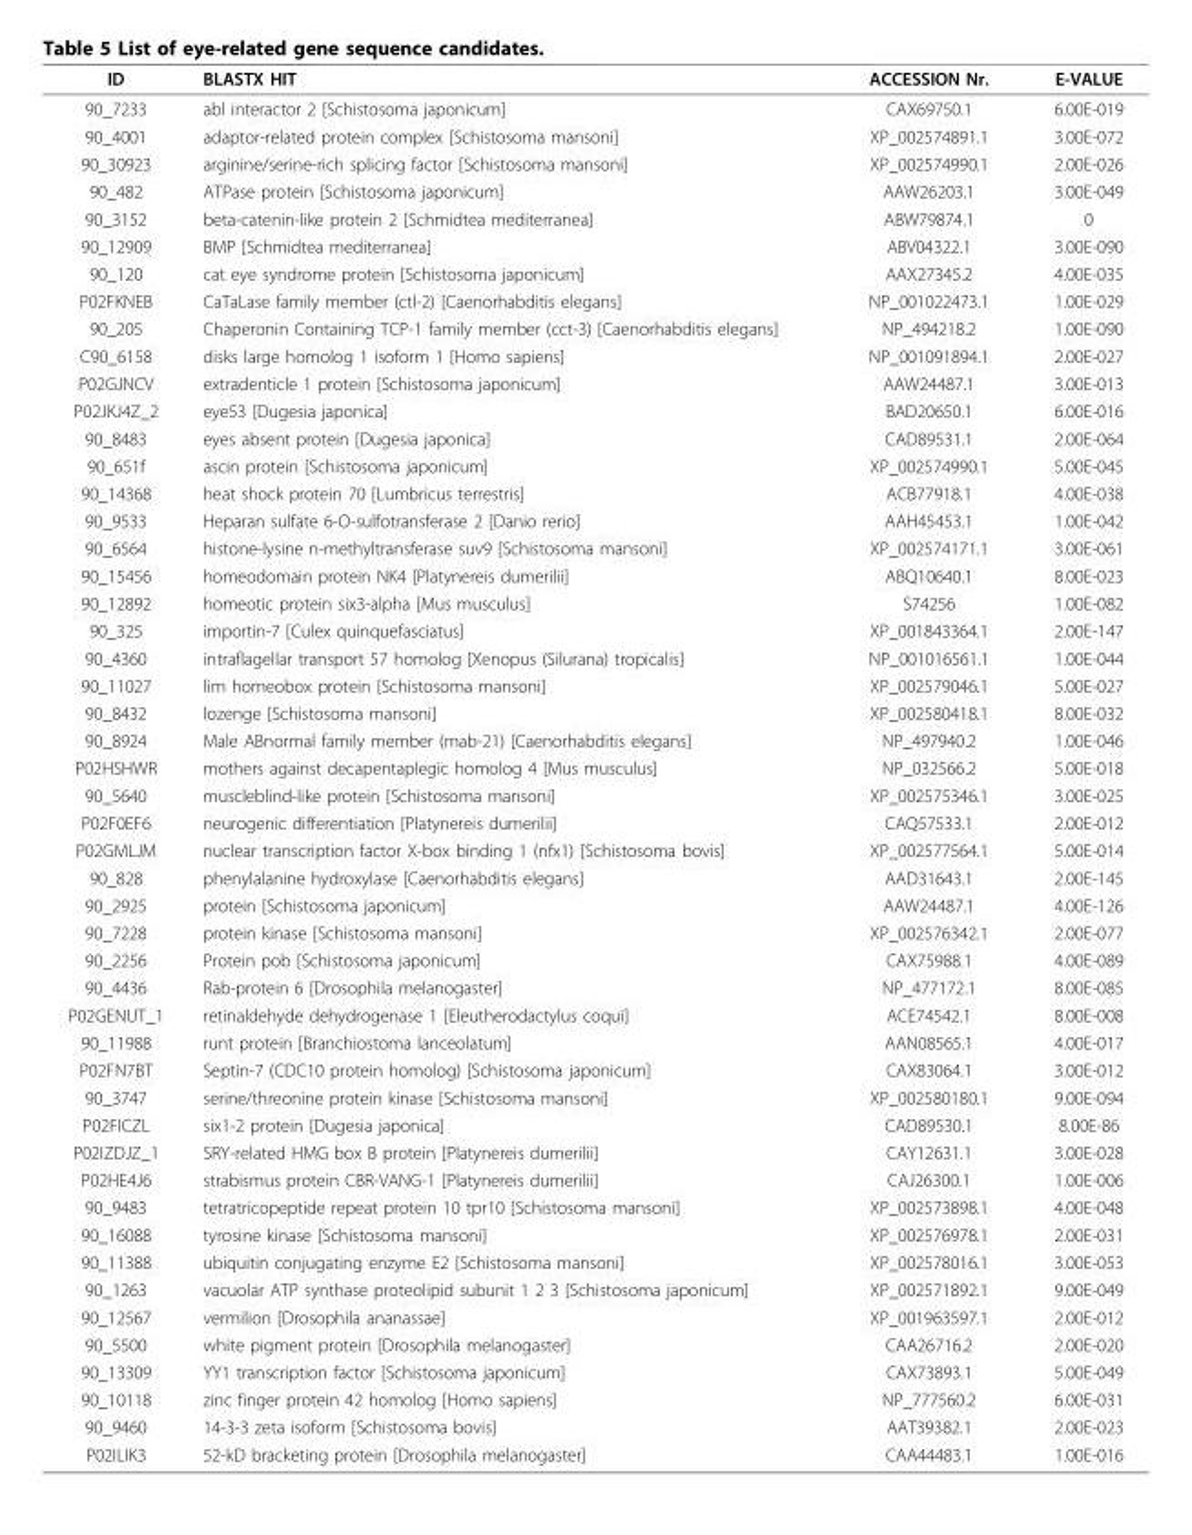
<table><thead><tr><td>ID</td><td>BLASTX HIT</td><td>ACCESSION Nr.</td><td>E-VALUE</td></tr></thead><tbody><tr><td>90_7233</td><td>abl interactor 2 [Schistosoma japonicum]</td><td>CAX69750.1</td><td>6.00E-019</td></tr><tr><td>90_4001</td><td>adaptor-related protein complex [Schistosoma mansoni]</td><td>XP_002574891.1</td><td>3.00E-072</td></tr><tr><td>90_30923</td><td>arginine/serine-rich splicing factor [Schistosoma mansoni]</td><td>XP_002574990.1</td><td>2.00E-026</td></tr><tr><td>90_482</td><td>ATPase protein [Schistosoma japonicum]</td><td>AAW26203.1</td><td>3.00E-049</td></tr><tr><td>90_3152</td><td>beta-catenin-like protein 2 [Schmidtea mediterranea]</td><td>ABW79874.1</td><td>0</td></tr><tr><td>90_12909</td><td>BMP [Schmidtea mediterranea]</td><td>ABV04322.1</td><td>3.00E-090</td></tr><tr><td>90_120</td><td>cat eye syndrome protein [Schistosoma japonicum]</td><td>AAX27345.2</td><td>4.00E-035</td></tr><tr><td>P02FKNEB</td><td>CaTaLase family member (ctl-2) [Caenorhabditis elegans]</td><td>NP_001022473.1</td><td>1.00E-029</td></tr><tr><td>90_205</td><td>Chaperonin Containing TCP-1 family member (cct-3) [Caenorhabditis elegans]</td><td>NP_494218.2</td><td>1.00E-090</td></tr><tr><td>C90_6158</td><td>disks large homolog 1 isoform 1 [Homo sapiens]</td><td>NP_001091894.1</td><td>2.00E-027</td></tr><tr><td>P02GJNCV</td><td>extradenticle 1 protein [Schistosoma japonicum]</td><td>AAW24487.1</td><td>3.00E-013</td></tr><tr><td>P02JKJ4Z_2</td><td>eye53 [Dugesia japonica]</td><td>BAD20650.1</td><td>6.00E-016</td></tr><tr><td>90_8483</td><td>eyes absent protein [Dugesia japonica]</td><td>CAD89531.1</td><td>2.00E-064</td></tr><tr><td>90_651f</td><td>ascin protein [Schistosoma japonicum]</td><td>XP_002574990.1</td><td>5.00E-045</td></tr><tr><td>90_14368</td><td>heat shock protein 70 [Lumbricus terrestris]</td><td>ACB77918.1</td><td>4.00E-038</td></tr><tr><td>90_9533</td><td>Heparan sulfate 6-O-sulfotransferase 2 [Danio rerio]</td><td>AAH45453.1</td><td>1.00E-042</td></tr><tr><td>90_6564</td><td>histone-lysine n-methyltransferase suv9 [Schistosoma mansoni]</td><td>XP_002574171.1</td><td>3.00E-061</td></tr><tr><td>90_15456</td><td>homeodomain protein NK4 [Platynereis dumerilii]</td><td>ABQ10640.1</td><td>8.00E-023</td></tr><tr><td>90_12892</td><td>homeotic protein six3-alpha [Mus musculus]</td><td>S74256</td><td>1.00E-082</td></tr><tr><td>90_325</td><td>importin-7 [Culex quinquefasciatus]</td><td>XP_001843364.1</td><td>2.00E-147</td></tr><tr><td>90_4360</td><td>intraflagellar transport 57 homolog [Xenopus (Silurana) tropicalis]</td><td>NP_001016561.1</td><td>1.00E-044</td></tr><tr><td>90_11027</td><td>lim homeobox protein [Schistosoma mansoni]</td><td>XP_002579046.1</td><td>5.00E-027</td></tr><tr><td>90_8432</td><td>lozenge [Schistosoma mansoni]</td><td>XP_002580418.1</td><td>8.00E-032</td></tr><tr><td>90_8924</td><td>Male ABnormal family member (mab-21) [Caenorhabditis elegans]</td><td>NP_497940.2</td><td>1.00E-046</td></tr><tr><td>P02HSHWR</td><td>mothers against decapentaplegic homolog 4 [Mus musculus]</td><td>NP_032566.2</td><td>5.00E-018</td></tr><tr><td>90_5640</td><td>muscleblind-like protein [Schistosoma mansoni]</td><td>XP_002575346.1</td><td>3.00E-025</td></tr><tr><td>P02F0EF6</td><td>neurogenic differentiation [Platynereis dumerilii]</td><td>CAQ57533.1</td><td>2.00E-012</td></tr><tr><td>P02GMLJM</td><td>nuclear transcription factor X-box binding 1 (nfx1) [Schistosoma bovis]</td><td>XP_002577564.1</td><td>5.00E-014</td></tr><tr><td>90_828</td><td>phenylalanine hydroxylase [Caenorhabditis elegans]</td><td>AAD31643.1</td><td>2.00E-145</td></tr><tr><td>90_2925</td><td>protein [Schistosoma japonicum]</td><td>AAW24487.1</td><td>4.00E-126</td></tr><tr><td>90_7228</td><td>protein kinase [Schistosoma mansoni]</td><td>XP_002576342.1</td><td>2.00E-077</td></tr><tr><td>90_2256</td><td>Protein pob [Schistosoma japonicum]</td><td>CAX75988.1</td><td>4.00E-089</td></tr><tr><td>90_4436</td><td>Rab-protein 6 [Drosophila melanogaster]</td><td>NP_477172.1</td><td>8.00E-085</td></tr><tr><td>P02GENUT_1</td><td>retinaldehyde dehydrogenase 1 [Eleutherodactylus coqui]</td><td>ACE74542.1</td><td>8.00E-008</td></tr><tr><td>90_11988</td><td>runt protein [Branchiostoma lanceolatum]</td><td>AAN08565.1</td><td>4.00E-017</td></tr><tr><td>P02FN7BT</td><td>Septin-7 (CDC10 protein homolog) [Schistosoma japonicum]</td><td>CAX83064.1</td><td>3.00E-012</td></tr><tr><td>90_3747</td><td>serine/threonine protein kinase [Schistosoma mansoni]</td><td>XP_002580180.1</td><td>9.00E-094</td></tr><tr><td>P02FICZL</td><td>six1-2 protein [Dugesia japonica]</td><td>CAD89530.1</td><td>8.00E-86</td></tr><tr><td>P02IZDJZ_1</td><td>SRY-related HMG box B protein [Platynereis dumerilii]</td><td>CAY12631.1</td><td>3.00E-028</td></tr><tr><td>P02HE4J6</td><td>strabismus protein CBR-VANG-1 [Platynereis dumerilii]</td><td>CAJ26300.1</td><td>1.00E-006</td></tr><tr><td>90_9483</td><td>tetratricopeptide repeat protein 10 tpr10 [Schistosoma mansoni]</td><td>XP_002573898.1</td><td>4.00E-048</td></tr><tr><td>90_16088</td><td>tyrosine kinase [Schistosoma mansoni]</td><td>XP_002576978.1</td><td>2.00E-031</td></tr><tr><td>90_11388</td><td>ubiquitin conjugating enzyme E2 [Schistosoma mansoni]</td><td>XP_002578016.1</td><td>3.00E-053</td></tr><tr><td>90_1263</td><td>vacuolar ATP synthase proteolipid subunit 1 2 3 [Schistosoma japonicum]</td><td>XP_002571892.1</td><td>9.00E-049</td></tr><tr><td>90_12567</td><td>vermilion [Drosophila ananassae]</td><td>XP_001963597.1</td><td>2.00E-012</td></tr><tr><td>90_5500</td><td>white pigment protein [Drosophila melanogaster]</td><td>CAA26716.2</td><td>2.00E-020</td></tr><tr><td>90_13309</td><td>YY1 transcription factor [Schistosoma japonicum]</td><td>CAX73893.1</td><td>5.00E-049</td></tr><tr><td>90_10118</td><td>zinc finger protein 42 homolog [Homo sapiens]</td><td>NP_777560.2</td><td>6.00E-031</td></tr><tr><td>90_9460</td><td>14-3-3 zeta isoform [Schistosoma bovis]</td><td>AAT39382.1</td><td>2.00E-023</td></tr><tr><td>P02ILIK3</td><td>52-kD bracketing protein [Drosophila melanogaster]</td><td>CAA44483.1</td><td>1.00E-016</td></tr></tbody></table>